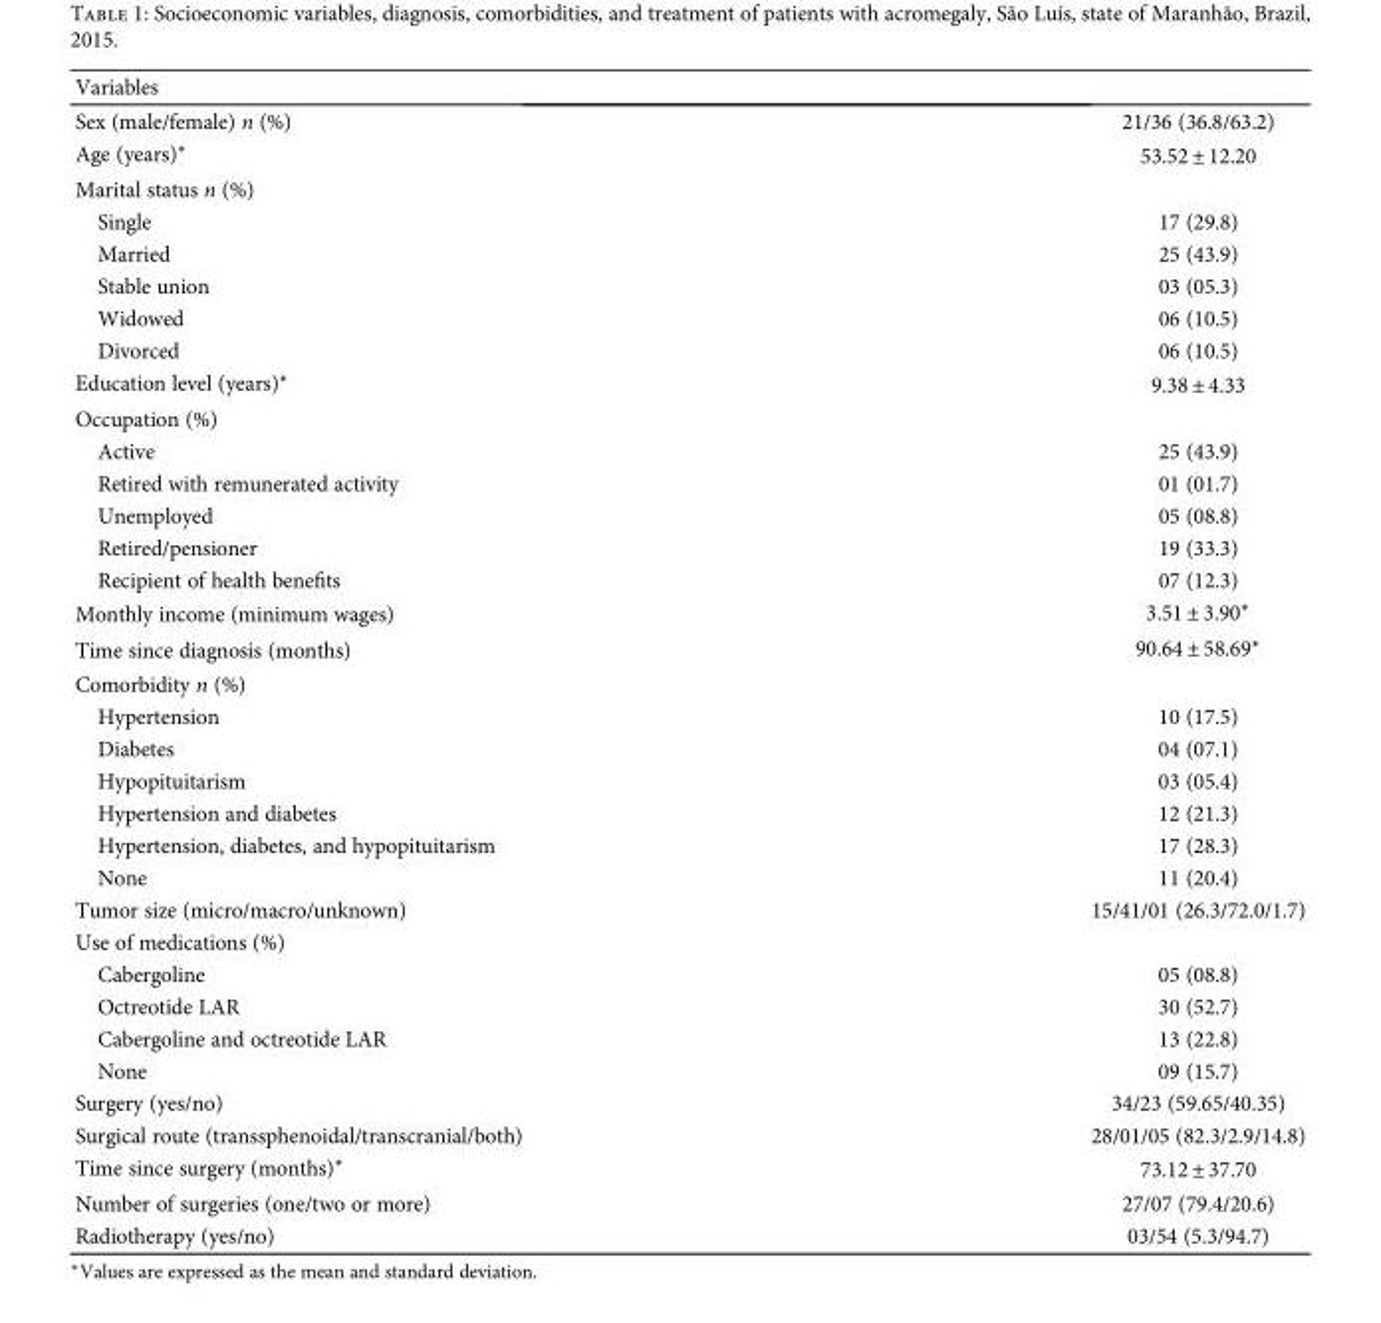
<table><thead><tr><td>Variables</td><td></td></tr></thead><tbody><tr><td>Sex (male/female) n (%)</td><td>21/36 (36.8/63.2)</td></tr><tr><td>Age (years)∗</td><td>53.52 ± 12.20</td></tr><tr><td colspan="2">Marital status n (%)</td></tr><tr><td>Single</td><td>17 (29.8)</td></tr><tr><td>Married</td><td>25 (43.9)</td></tr><tr><td>Stable union</td><td>03 (05.3)</td></tr><tr><td>Widowed</td><td>06 (10.5)</td></tr><tr><td>Divorced</td><td>06 (10.5)</td></tr><tr><td>Education level (years)∗</td><td>9.38 ± 4.33</td></tr><tr><td colspan="2">Occupation (%)</td></tr><tr><td>Active</td><td>25 (43.9)</td></tr><tr><td>Retired with remunerated activity</td><td>01 (01.7)</td></tr><tr><td>Unemployed</td><td>05 (08.8)</td></tr><tr><td>Retired/pensioner</td><td>19 (33.3)</td></tr><tr><td>Recipient of health benefits</td><td>07 (12.3)</td></tr><tr><td>Monthly income (minimum wages)</td><td>3.51 ± 3.90∗</td></tr><tr><td>Time since diagnosis (months)</td><td>90.64 ± 58.69∗</td></tr><tr><td colspan="2">Comorbidity n (%)</td></tr><tr><td>Hypertension</td><td>10 (17.5)</td></tr><tr><td>Diabetes</td><td>04 (07.1)</td></tr><tr><td>Hypopituitarism</td><td>03 (05.4)</td></tr><tr><td>Hypertension and diabetes</td><td>12 (21.3)</td></tr><tr><td>Hypertension, diabetes, and hypopituitarism</td><td>17 (28.3)</td></tr><tr><td>None</td><td>11 (20.4)</td></tr><tr><td>Tumor size (micro/macro/unknown)</td><td>15/41/01 (26.3/72.0/1.7)</td></tr><tr><td colspan="2">Use of medications (%)</td></tr><tr><td>Cabergoline</td><td>05 (08.8)</td></tr><tr><td>Octreotide LAR</td><td>30 (52.7)</td></tr><tr><td>Cabergoline and octreotide LAR</td><td>13 (22.8)</td></tr><tr><td>None</td><td>09 (15.7)</td></tr><tr><td>Surgery (yes/no)</td><td>34/23 (59.65/40.35)</td></tr><tr><td>Surgical route (transsphenoidal/transcranial/both)</td><td>28/01/05 (82.3/2.9/14.8)</td></tr><tr><td>Time since surgery (months)∗</td><td>73.12 ± 37.70</td></tr><tr><td>Number of surgeries (one/two or more)</td><td>27/07 (79.4/20.6)</td></tr><tr><td>Radiotherapy (yes/no)</td><td>03/54 (5.3/94.7)</td></tr></tbody></table>